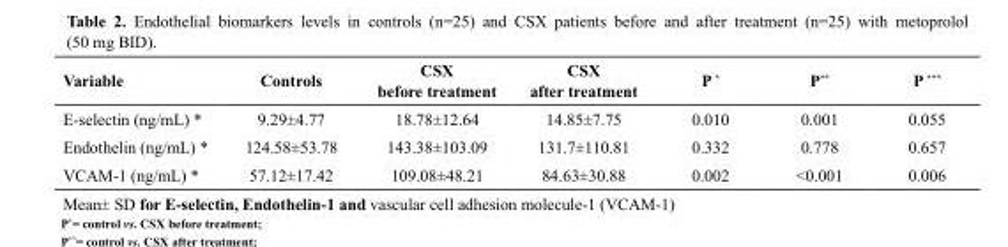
<table><tbody><tr><td>Variable</td><td>Controls</td><td>CSX before treatment</td><td>CSX after treatment</td><td>P *</td><td>P**</td><td>P ***</td></tr><tr><td>E-selectin (ng/mL) *</td><td>9.29±4.77</td><td>18.78±12.64</td><td>14.85±7.75</td><td>0.010</td><td>0.001</td><td>0.055</td></tr><tr><td>Endothelin (ng/mL) *</td><td>124.58±53.78</td><td>143.38±103.09</td><td>131.7±110.81</td><td>0.332</td><td>0.778</td><td>0.657</td></tr><tr><td>VCAM-1 (ng/mL) *</td><td>57.12±17.42</td><td>109.08±48.21</td><td>84.63±30.88</td><td>0.002</td><td>&lt;0.001</td><td>0.006</td></tr></tbody></table>